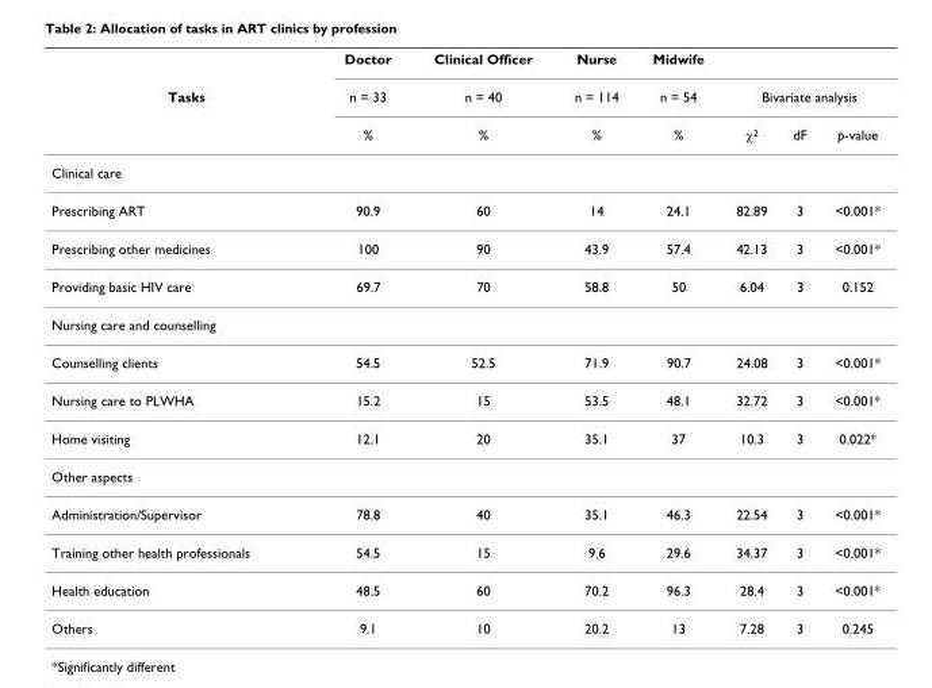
<table><thead><tr><td rowspan="3">Tasks</td><td rowspan="3">Doctor n = 33 %</td><td rowspan="3">Clinical Officer n = 40 %</td><td rowspan="3">Nurse n = 114 %</td><td rowspan="3">Midwife n = 54 %</td><td></td><td></td><td></td></tr><tr><td colspan="3">Bivariate analysis</td></tr><tr><td>χ2</td><td>dF</td><td>p-value</td></tr></thead><tbody><tr><td colspan="8">Clinical care</td></tr><tr><td>Prescribing ART</td><td>90.9</td><td>60</td><td>14</td><td>24.1</td><td>82.89</td><td>3</td><td>&lt;0.001*</td></tr><tr><td>Prescribing other medicines</td><td>100</td><td>90</td><td>43.9</td><td>57.4</td><td>42.13</td><td>3</td><td>&lt;0.001*</td></tr><tr><td>Providing basic HIV care</td><td>69.7</td><td>70</td><td>58.8</td><td>50</td><td>6.04</td><td>3</td><td>0.152</td></tr><tr><td colspan="8">Nursing care and counselling</td></tr><tr><td>Counselling clients</td><td>54.5</td><td>52.5</td><td>71.9</td><td>90.7</td><td>24.08</td><td>3</td><td>&lt;0.001*</td></tr><tr><td>Nursing care to PLWHA</td><td>15.2</td><td>15</td><td>53.5</td><td>48.1</td><td>32.72</td><td>3</td><td>&lt;0.001*</td></tr><tr><td>Home visiting</td><td>12.1</td><td>20</td><td>35.1</td><td>37</td><td>10.3</td><td>3</td><td>0.022*</td></tr><tr><td colspan="8">Other aspects</td></tr><tr><td>Administration/Supervisor</td><td>78.8</td><td>40</td><td>35.1</td><td>46.3</td><td>22.54</td><td>3</td><td>&lt;0.001*</td></tr><tr><td>Training other health professionals</td><td>54.5</td><td>15</td><td>9.6</td><td>29.6</td><td>34.37</td><td>3</td><td>&lt;0.001*</td></tr><tr><td>Health education</td><td>48.5</td><td>60</td><td>70.2</td><td>96.3</td><td>28.4</td><td>3</td><td>&lt;0.001*</td></tr><tr><td>Others</td><td>9.1</td><td>10</td><td>20.2</td><td>13</td><td>7.28</td><td>3</td><td>0.245</td></tr></tbody></table>